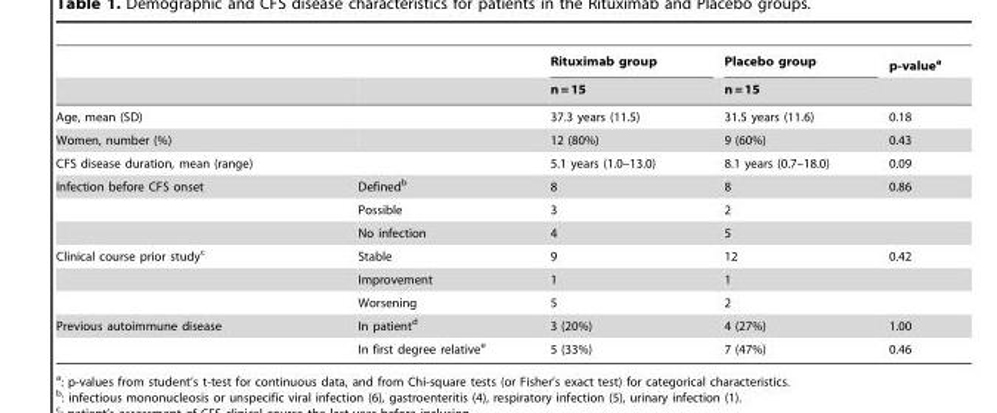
<table><thead><tr><td rowspan="2"></td><td rowspan="2"></td><td rowspan="2">Rituximab group n = 15</td><td rowspan="2">Placebo group n = 15</td><td rowspan="2">p-value<sup>a</sup></td></tr><tr></tr></thead><tbody><tr><td>Age, mean (SD)</td><td></td><td>37.3 years (11.5)</td><td>31.5 years (11.6)</td><td>0.18</td></tr><tr><td>Women, number (%)</td><td></td><td>12 (80%)</td><td>9 (60%)</td><td>0.43</td></tr><tr><td>CFS disease duration, mean (range)</td><td></td><td>5.1 years (1.0–13.0)</td><td>8.1 years (0.7–18.0)</td><td>0.09</td></tr><tr><td rowspan="3">Infection before CFS onset</td><td>Defined<sup>b</sup></td><td>8</td><td>8</td><td>0.86</td></tr><tr><td>Possible</td><td>3</td><td>2</td><td></td></tr><tr><td>No infection</td><td>4</td><td>5</td><td></td></tr><tr><td rowspan="3">Clinical course prior study<sup>c</sup></td><td>Stable</td><td>9</td><td>12</td><td>0.42</td></tr><tr><td>Improvement</td><td>1</td><td>1</td><td></td></tr><tr><td>Worsening</td><td>5</td><td>2</td><td></td></tr><tr><td rowspan="2">Previous autoimmune disease</td><td>In patient<sup>d</sup></td><td>3 (20%)</td><td>4 (27%)</td><td>1.00</td></tr><tr><td>In first degree relative<sup>e</sup></td><td>5 (33%)</td><td>7 (47%)</td><td>0.46</td></tr></tbody></table>